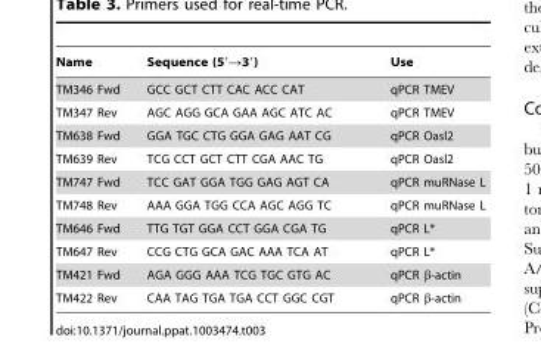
<table><thead><tr><td>Name</td><td>Sequence (5′→3′)</td><td>Use</td></tr></thead><tbody><tr><td>TM346 Fwd</td><td>GCC GCT CTT CAC ACC CAT</td><td>qPCR TMEV</td></tr><tr><td>TM347 Rev</td><td>AGC AGG GCA GAA AGC ATC AC</td><td>qPCR TMEV</td></tr><tr><td>TM638 Fwd</td><td>GGA TGC CTG GGA GAG AAT CG</td><td>qPCR Oasl2</td></tr><tr><td>TM639 Rev</td><td>TCG CCT GCT CTT CGA AAC TG</td><td>qPCR Oasl2</td></tr><tr><td>TM747 Fwd</td><td>TCC GAT GGA TGG GAG AGT CA</td><td>qPCR muRNase L</td></tr><tr><td>TM748 Rev</td><td>AAA GGA TGG CCA AGC AGG TC</td><td>qPCR muRNase L</td></tr><tr><td>TM646 Fwd</td><td>TTG TGT GGA CCT GGA CGA TG</td><td>qPCR L*</td></tr><tr><td>TM647 Rev</td><td>CCG CTG GCA GAC AAA TCA AT</td><td>qPCR L*</td></tr><tr><td>TM421 Fwd</td><td>AGA GGG AAA TCG TGC GTG AC</td><td>qPCR β-actin</td></tr><tr><td>TM422 Rev</td><td>CAA TAG TGA TGA CCT GGC CGT</td><td>qPCR β-actin</td></tr></tbody></table>